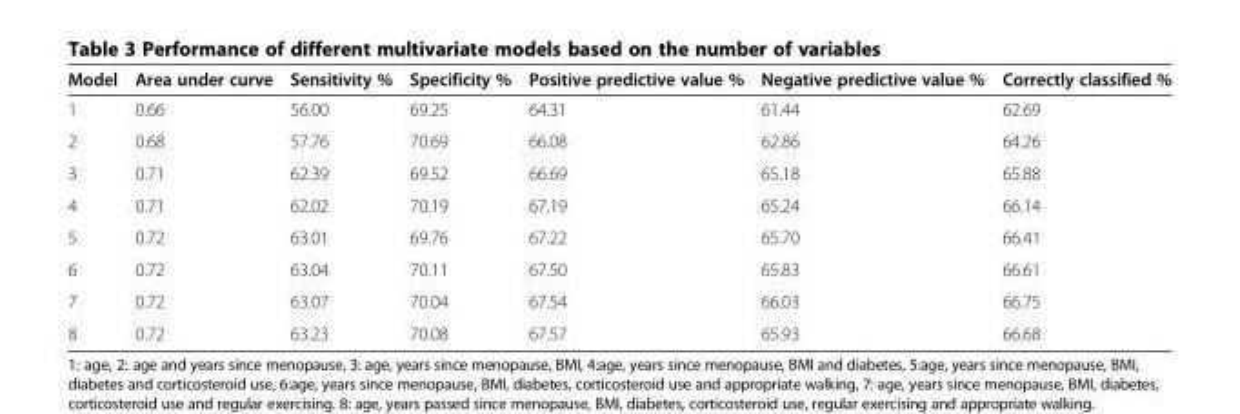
<table><thead><tr><td>Model</td><td>Area under curve</td><td>Sensitivity %</td><td>Specificity %</td><td>Positive predictive value %</td><td>Negative predictive value %</td><td>Correctly classified %</td></tr></thead><tbody><tr><td>1</td><td>0.66</td><td>56.00</td><td>69.25</td><td>64.31</td><td>61.44</td><td>62.69</td></tr><tr><td>2</td><td>0.68</td><td>57.76</td><td>70.69</td><td>66.08</td><td>62.86</td><td>64.26</td></tr><tr><td>3</td><td>0.71</td><td>62.39</td><td>69.52</td><td>66.69</td><td>65.18</td><td>65.88</td></tr><tr><td>4</td><td>0.71</td><td>62.02</td><td>70.19</td><td>67.19</td><td>65.24</td><td>66.14</td></tr><tr><td>5</td><td>0.72</td><td>63.01</td><td>69.76</td><td>67.22</td><td>65.70</td><td>66.41</td></tr><tr><td>6</td><td>0.72</td><td>63.04</td><td>70.11</td><td>67.50</td><td>65.83</td><td>66.61</td></tr><tr><td>7</td><td>0.72</td><td>63.07</td><td>70.04</td><td>67.54</td><td>66.03</td><td>66.75</td></tr><tr><td>8</td><td>0.72</td><td>63.23</td><td>70.08</td><td>67.57</td><td>65.93</td><td>66.68</td></tr></tbody></table>